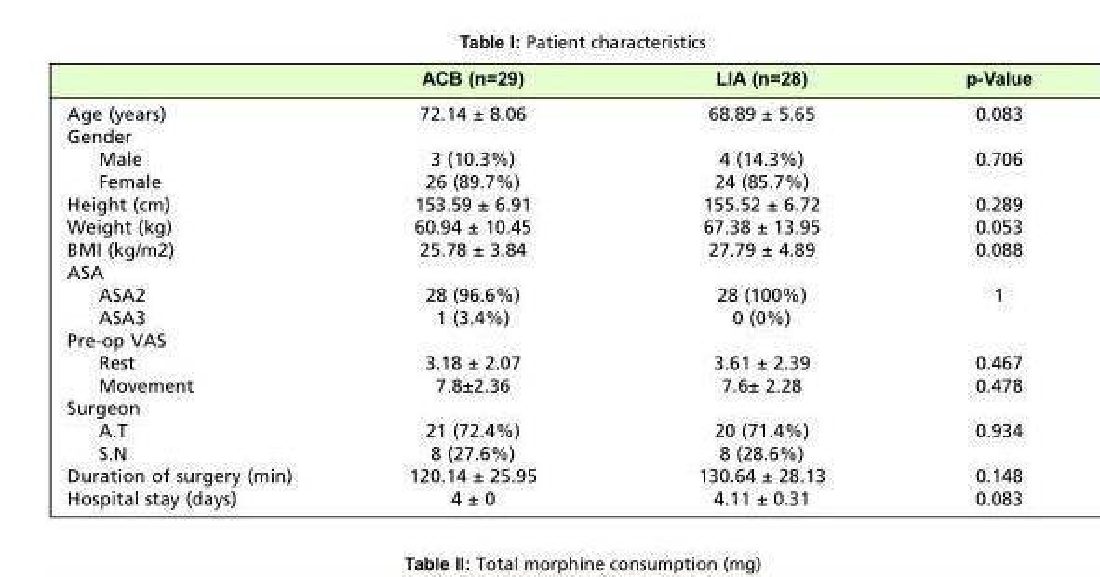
<table><thead><tr><td></td><td>ACB (n=29)</td><td>LIA (n=28)</td><td>p-Value</td></tr></thead><tbody><tr><td>Age (years)</td><td>72.14 ± 8.06</td><td>68.89 ± 5.65</td><td>0.083</td></tr><tr><td colspan="4">Gender</td></tr><tr><td>Male</td><td>3 (10.3%)</td><td>4 (14.3%)</td><td>0.706</td></tr><tr><td>Female</td><td>26 (89.7%)</td><td>24 (85.7%)</td><td></td></tr><tr><td>Height (cm)</td><td>153.59 ± 6.91</td><td>155.52 ± 6.72</td><td>0.289</td></tr><tr><td>Weight (kg)</td><td>60.94 ± 10.45</td><td>67.38 ± 13.95</td><td>0.053</td></tr><tr><td>BMI (kg/m2)</td><td>25.78 ± 3.84</td><td>27.79 ± 4.89</td><td>0.088</td></tr><tr><td colspan="4">ASA</td></tr><tr><td>ASA2</td><td>28 (96.6%)</td><td>28 (100%)</td><td>1</td></tr><tr><td>ASA3</td><td>1 (3.4%)</td><td>0 (0%)</td><td></td></tr><tr><td colspan="4">Pre-op VAS</td></tr><tr><td>Rest</td><td>3.18 ± 2.07</td><td>3.61 ± 2.39</td><td>0.467</td></tr><tr><td>Movement</td><td>7.8±2.36</td><td>7.6± 2.28</td><td>0.478</td></tr><tr><td colspan="4">Surgeon</td></tr><tr><td>A.T</td><td>21 (72.4%)</td><td>20 (71.4%)</td><td>0.934</td></tr><tr><td>S.N</td><td>8 (27.6%)</td><td>8 (28.6%)</td><td></td></tr><tr><td>Duration of surgery (min)</td><td>120.14 ± 25.95</td><td>130.64 ± 28.13</td><td>0.148</td></tr><tr><td>Hospital stay (days)</td><td>4 ± 0</td><td>4.11 ± 0.31</td><td>0.083</td></tr></tbody></table>